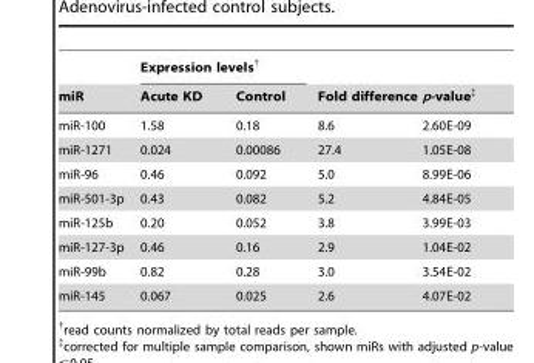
<table><thead><tr><td rowspan="2">miR</td><td colspan="2">Expression levels†</td><td rowspan="2">Fold difference</td><td rowspan="2">p-value‡</td></tr><tr><td>Acute KD</td><td>Control</td></tr></thead><tbody><tr><td>miR-100</td><td>1.58</td><td>0.18</td><td>8.6</td><td>2.60E-09</td></tr><tr><td>miR-1271</td><td>0.024</td><td>0.00086</td><td>27.4</td><td>1.05E-08</td></tr><tr><td>miR-96</td><td>0.46</td><td>0.092</td><td>5.0</td><td>8.99E-06</td></tr><tr><td>miR-501-3p</td><td>0.43</td><td>0.082</td><td>5.2</td><td>4.84E-05</td></tr><tr><td>miR-125b</td><td>0.20</td><td>0.052</td><td>3.8</td><td>3.99E-03</td></tr><tr><td>miR-127-3p</td><td>0.46</td><td>0.16</td><td>2.9</td><td>1.04E-02</td></tr><tr><td>miR-99b</td><td>0.82</td><td>0.28</td><td>3.0</td><td>3.54E-02</td></tr><tr><td>miR-145</td><td>0.067</td><td>0.025</td><td>2.6</td><td>4.07E-02</td></tr></tbody></table>